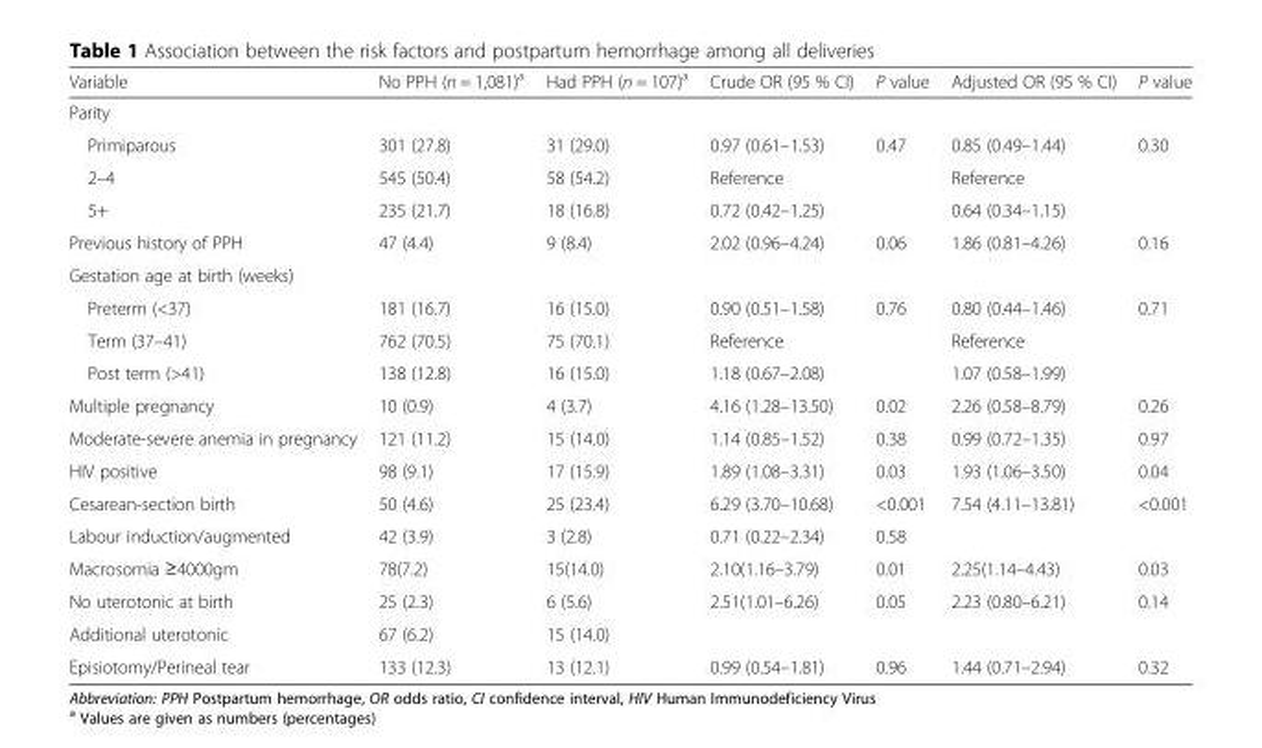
<table><thead><tr><td>Variable</td><td>No PPH (n = 1,081)<sup>a</sup></td><td>Had PPH (n = 107)<sup>a</sup></td><td>Crude OR (95 % CI)</td><td>P value</td><td>Adjusted OR (95 % CI)</td><td>P value</td></tr></thead><tbody><tr><td colspan="7">Parity</td></tr><tr><td>Primiparous</td><td>301 (27.8)</td><td>31 (29.0)</td><td>0.97 (0.61–1.53)</td><td rowspan="3">0.47</td><td>0.85 (0.49–1.44)</td><td rowspan="3">0.30</td></tr><tr><td>2–4</td><td>545 (50.4)</td><td>58 (54.2)</td><td>Reference</td><td>Reference</td></tr><tr><td>5+</td><td>235 (21.7)</td><td>18 (16.8)</td><td>0.72 (0.42–1.25)</td><td>0.64 (0.34–1.15)</td></tr><tr><td>Previous history of PPH</td><td>47 (4.4)</td><td>9 (8.4)</td><td>2.02 (0.96–4.24)</td><td>0.06</td><td>1.86 (0.81–4.26)</td><td>0.16</td></tr><tr><td colspan="7">Gestation age at birth (weeks)</td></tr><tr><td>Preterm (&lt;37)</td><td>181 (16.7)</td><td>16 (15.0)</td><td>0.90 (0.51–1.58)</td><td rowspan="3">0.76</td><td>0.80 (0.44–1.46)</td><td rowspan="3">0.71</td></tr><tr><td>Term (37–41)</td><td>762 (70.5)</td><td>75 (70.1)</td><td>Reference</td><td>Reference</td></tr><tr><td>Post term (&gt;41)</td><td>138 (12.8)</td><td>16 (15.0)</td><td>1.18 (0.67–2.08)</td><td>1.07 (0.58–1.99)</td></tr><tr><td>Multiple pregnancy</td><td>10 (0.9)</td><td>4 (3.7)</td><td>4.16 (1.28–13.50)</td><td>0.02</td><td>2.26 (0.58–8.79)</td><td>0.26</td></tr><tr><td>Moderate-severe anemia in pregnancy</td><td>121 (11.2)</td><td>15 (14.0)</td><td>1.14 (0.85–1.52)</td><td>0.38</td><td>0.99 (0.72–1.35)</td><td>0.97</td></tr><tr><td>HIV positive</td><td>98 (9.1)</td><td>17 (15.9)</td><td>1.89 (1.08–3.31)</td><td>0.03</td><td>1.93 (1.06–3.50)</td><td>0.04</td></tr><tr><td>Cesarean-section birth</td><td>50 (4.6)</td><td>25 (23.4)</td><td>6.29 (3.70–10.68)</td><td>&lt;0.001</td><td>7.54 (4.11–13.81)</td><td>&lt;0.001</td></tr><tr><td>Labour induction/augmented</td><td>42 (3.9)</td><td>3 (2.8)</td><td>0.71 (0.22–2.34)</td><td>0.58</td><td></td><td></td></tr><tr><td>Macrosomia ≥4000gm</td><td>78(7.2)</td><td>15(14.0)</td><td>2.10(1.16–3.79)</td><td>0.01</td><td>2.25(1.14–4.43)</td><td>0.03</td></tr><tr><td>No uterotonic at birth</td><td>25 (2.3)</td><td>6 (5.6)</td><td>2.51(1.01–6.26)</td><td>0.05</td><td>2.23 (0.80–6.21)</td><td>0.14</td></tr><tr><td>Additional uterotonic</td><td>67 (6.2)</td><td>15 (14.0)</td><td></td><td></td><td></td><td></td></tr><tr><td>Episiotomy/Perineal tear</td><td>133 (12.3)</td><td>13 (12.1)</td><td>0.99 (0.54–1.81)</td><td>0.96</td><td>1.44 (0.71–2.94)</td><td>0.32</td></tr></tbody></table>